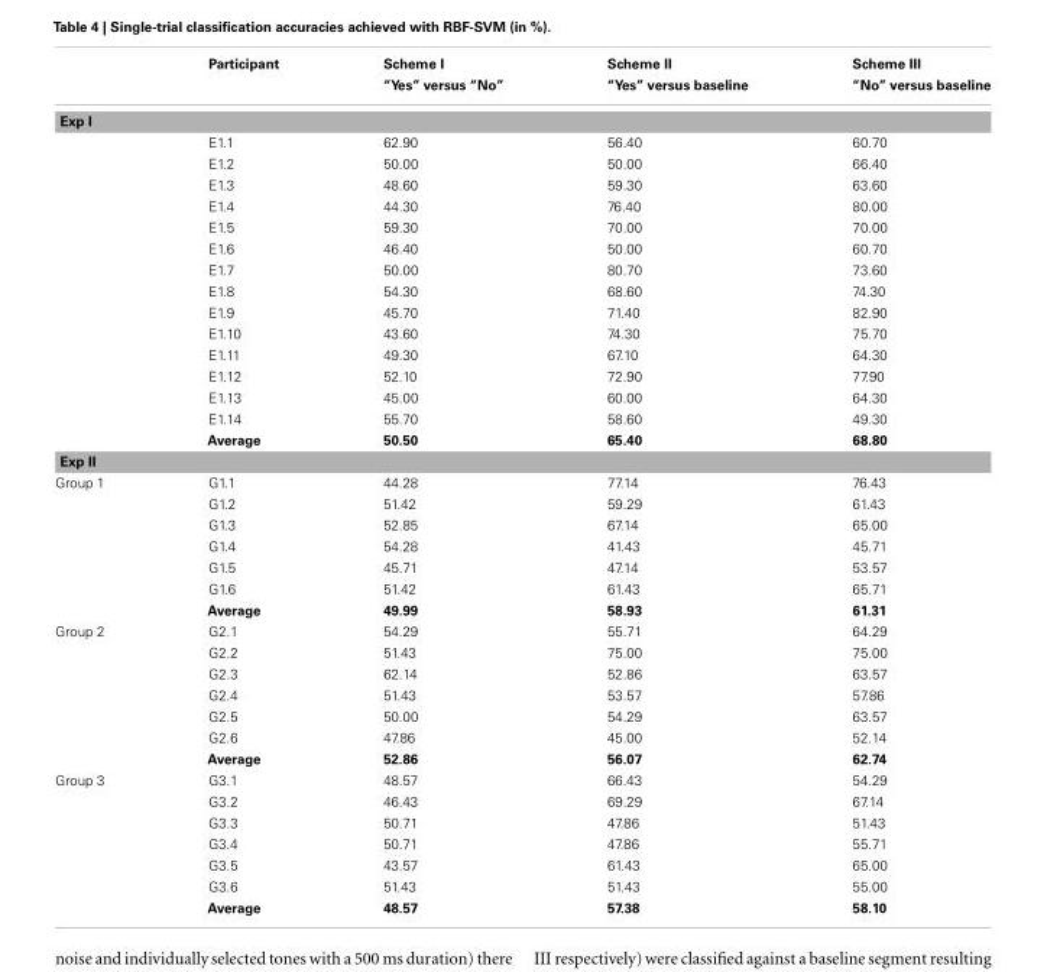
<table><thead><tr><td rowspan="2"></td><td rowspan="2">Participant</td><td rowspan="2">Scheme I “Yes” versus “No”</td><td rowspan="2">Scheme II “Yes” versus baseline</td><td rowspan="2">Scheme III “No” versus baseline</td></tr><tr></tr></thead><tbody><tr><td colspan="5">Exp I</td></tr><tr><td></td><td>E1.1</td><td>62.90</td><td>56.40</td><td>60.70</td></tr><tr><td></td><td>E1.2</td><td>50.00</td><td>50.00</td><td>66.40</td></tr><tr><td></td><td>E1.3</td><td>48.60</td><td>59.30</td><td>63.60</td></tr><tr><td></td><td>E1.4</td><td>44.30</td><td>76.40</td><td>80.00</td></tr><tr><td></td><td>E1.5</td><td>59.30</td><td>70.00</td><td>70.00</td></tr><tr><td></td><td>E1.6</td><td>46.40</td><td>50.00</td><td>60.70</td></tr><tr><td></td><td>E1.7</td><td>50.00</td><td>80.70</td><td>73.60</td></tr><tr><td></td><td>E1.8</td><td>54.30</td><td>68.60</td><td>74.30</td></tr><tr><td></td><td>E1.9</td><td>45.70</td><td>71.40</td><td>82.90</td></tr><tr><td></td><td>E1.10</td><td>43.60</td><td>74.30</td><td>75.70</td></tr><tr><td></td><td>E1.11</td><td>49.30</td><td>67.10</td><td>64.30</td></tr><tr><td></td><td>E1.12</td><td>52.10</td><td>72.90</td><td>77.90</td></tr><tr><td></td><td>E1.13</td><td>45.00</td><td>60.00</td><td>64.30</td></tr><tr><td></td><td>E1.14</td><td>55.70</td><td>58.60</td><td>49.30</td></tr><tr><td></td><td>Average</td><td>50.50</td><td>65.40</td><td>68.80</td></tr><tr><td colspan="5">Exp II</td></tr><tr><td rowspan="7">Group 1</td><td>G1.1</td><td>44.28</td><td>77.14</td><td>76.43</td></tr><tr><td>G1.2</td><td>51.42</td><td>59.29</td><td>61.43</td></tr><tr><td>G1.3</td><td>52.85</td><td>67.14</td><td>65.00</td></tr><tr><td>G1.4</td><td>54.28</td><td>41.43</td><td>45.71</td></tr><tr><td>G1.5</td><td>45.71</td><td>47.14</td><td>53.57</td></tr><tr><td>G1.6</td><td>51.42</td><td>61.43</td><td>65.71</td></tr><tr><td>Average</td><td>49.99</td><td>58.93</td><td>61.31</td></tr><tr><td rowspan="7">Group 2</td><td>G2.1</td><td>54.29</td><td>55.71</td><td>64.29</td></tr><tr><td>G2.2</td><td>51.43</td><td>75.00</td><td>75.00</td></tr><tr><td>G2.3</td><td>62.14</td><td>52.86</td><td>63.57</td></tr><tr><td>G2.4</td><td>51.43</td><td>53.57</td><td>57.86</td></tr><tr><td>G2.5</td><td>50.00</td><td>54.29</td><td>63.57</td></tr><tr><td>G2.6</td><td>47.86</td><td>45.00</td><td>52.14</td></tr><tr><td>Average</td><td>52.86</td><td>56.07</td><td>62.74</td></tr><tr><td rowspan="7">Group 3</td><td>G3.1</td><td>48.57</td><td>66.43</td><td>54.29</td></tr><tr><td>G3.2</td><td>46.43</td><td>69.29</td><td>67.14</td></tr><tr><td>G3.3</td><td>50.71</td><td>47.86</td><td>51.43</td></tr><tr><td>G3.4</td><td>50.71</td><td>47.86</td><td>55.71</td></tr><tr><td>G3.5</td><td>43.57</td><td>61.43</td><td>65.00</td></tr><tr><td>G3.6</td><td>51.43</td><td>51.43</td><td>55.00</td></tr><tr><td>Average</td><td>48.57</td><td>57.38</td><td>58.10</td></tr></tbody></table>